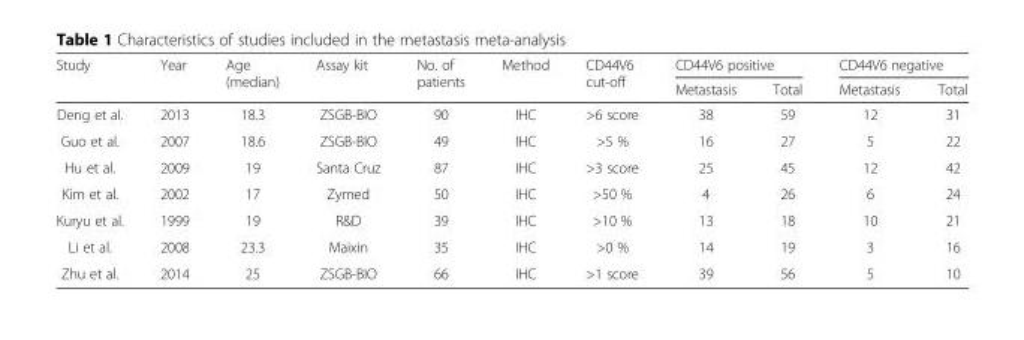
<table><thead><tr><td rowspan="2">Study</td><td rowspan="2">Year</td><td rowspan="2">Age (median)</td><td rowspan="2">Assay kit</td><td rowspan="2">No. of patients</td><td rowspan="2">Method</td><td rowspan="2">CD44V6 cut-off</td><td colspan="2">CD44V6 positive</td><td colspan="2">CD44V6 negative</td></tr><tr><td>Metastasis</td><td>Total</td><td>Metastasis</td><td>Total</td></tr></thead><tbody><tr><td>Deng et al.</td><td>2013</td><td>18.3</td><td>ZSGB-BIO</td><td>90</td><td>IHC</td><td>&gt;6 score</td><td>38</td><td>59</td><td>12</td><td>31</td></tr><tr><td>Guo et al.</td><td>2007</td><td>18.6</td><td>ZSGB-BIO</td><td>49</td><td>IHC</td><td>&gt;5 %</td><td>16</td><td>27</td><td>5</td><td>22</td></tr><tr><td>Hu et al.</td><td>2009</td><td>19</td><td>Santa Cruz</td><td>87</td><td>IHC</td><td>&gt;3 score</td><td>25</td><td>45</td><td>12</td><td>42</td></tr><tr><td>Kim et al.</td><td>2002</td><td>17</td><td>Zymed</td><td>50</td><td>IHC</td><td>&gt;50 %</td><td>4</td><td>26</td><td>6</td><td>24</td></tr><tr><td>Kuryu et al.</td><td>1999</td><td>19</td><td>R&amp;D</td><td>39</td><td>IHC</td><td>&gt;10 %</td><td>13</td><td>18</td><td>10</td><td>21</td></tr><tr><td>Li et al.</td><td>2008</td><td>23.3</td><td>Maixin</td><td>35</td><td>IHC</td><td>&gt;0 %</td><td>14</td><td>19</td><td>3</td><td>16</td></tr><tr><td>Zhu et al.</td><td>2014</td><td>25</td><td>ZSGB-BIO</td><td>66</td><td>IHC</td><td>&gt;1 score</td><td>39</td><td>56</td><td>5</td><td>10</td></tr></tbody></table>